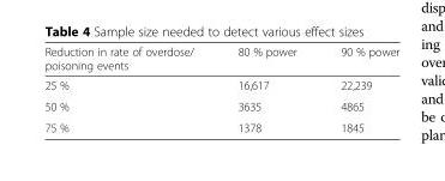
<table><thead><tr><td>Reduction in rate of overdose/ poisoning events</td><td>80 % power</td><td>90 % power</td></tr></thead><tbody><tr><td>25 %</td><td>16,617</td><td>22,239</td></tr><tr><td>50 %</td><td>3635</td><td>4865</td></tr><tr><td>75 %</td><td>1378</td><td>1845</td></tr></tbody></table>